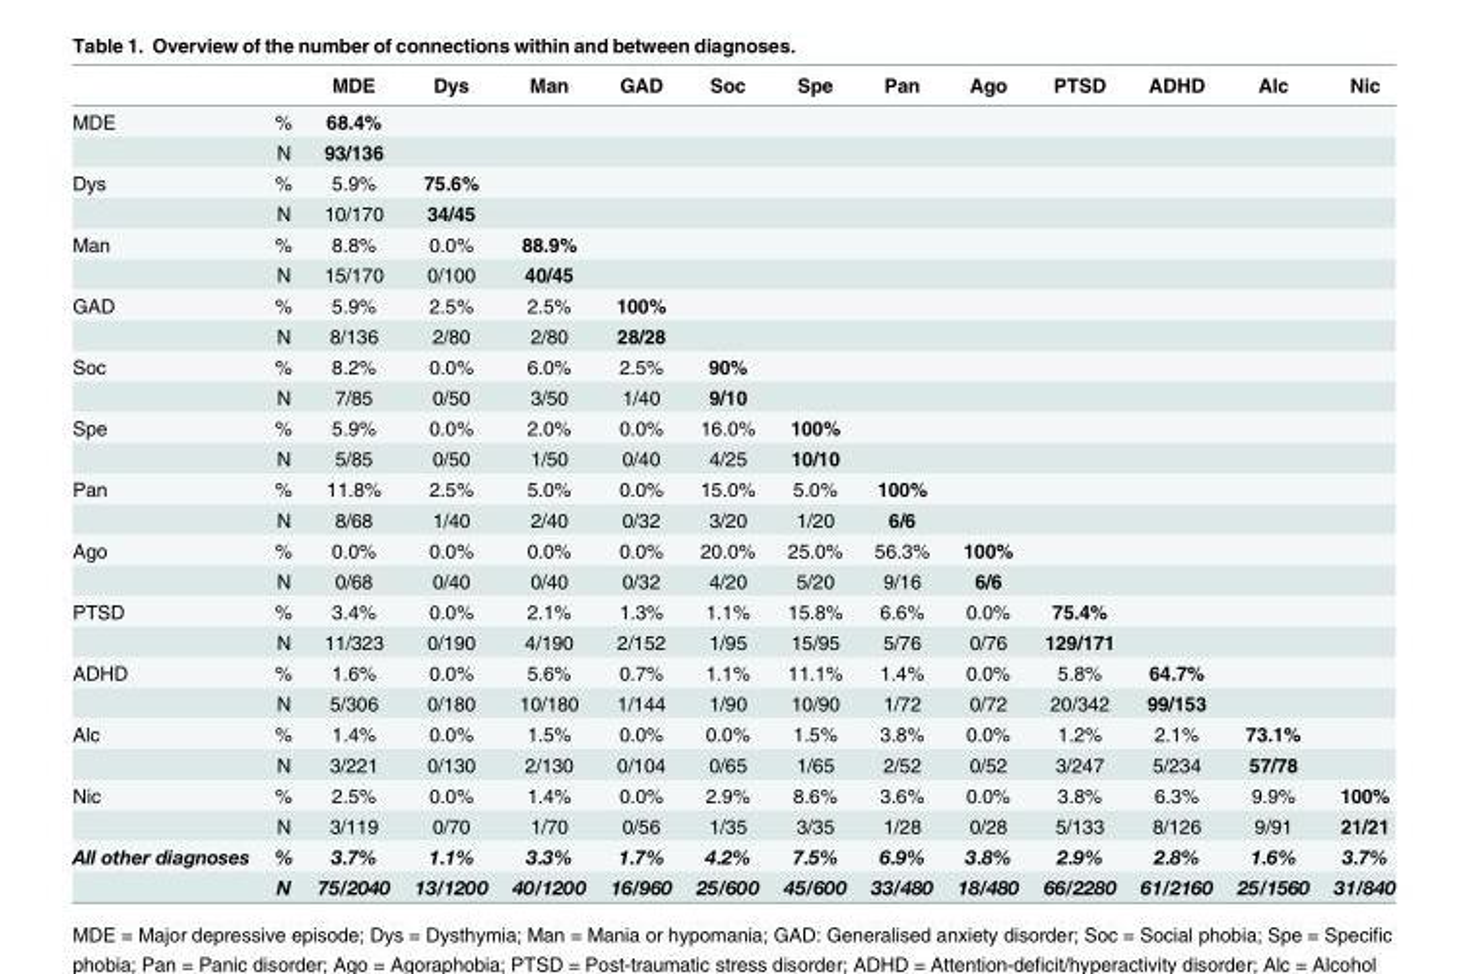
<table><thead><tr><td></td><td></td><td>MDE</td><td>Dys</td><td>Man</td><td>GAD</td><td>Soc</td><td>Spe</td><td>Pan</td><td>Ago</td><td>PTSD</td><td>ADHD</td><td>Alc</td><td>Nic</td></tr></thead><tbody><tr><td rowspan="2">MDE</td><td>%</td><td>68.4%</td><td></td><td></td><td></td><td></td><td></td><td></td><td></td><td></td><td></td><td></td><td></td></tr><tr><td>N</td><td>93/136</td><td></td><td></td><td></td><td></td><td></td><td></td><td></td><td></td><td></td><td></td><td></td></tr><tr><td rowspan="2">Dys</td><td>%</td><td>5.9%</td><td>75.6%</td><td></td><td></td><td></td><td></td><td></td><td></td><td></td><td></td><td></td><td></td></tr><tr><td>N</td><td>10/170</td><td>34/45</td><td></td><td></td><td></td><td></td><td></td><td></td><td></td><td></td><td></td><td></td></tr><tr><td rowspan="2">Man</td><td>%</td><td>8.8%</td><td>0.0%</td><td>88.9%</td><td></td><td></td><td></td><td></td><td></td><td></td><td></td><td></td><td></td></tr><tr><td>N</td><td>15/170</td><td>0/100</td><td>40/45</td><td></td><td></td><td></td><td></td><td></td><td></td><td></td><td></td><td></td></tr><tr><td rowspan="2">GAD</td><td>%</td><td>5.9%</td><td>2.5%</td><td>2.5%</td><td>100%</td><td></td><td></td><td></td><td></td><td></td><td></td><td></td><td></td></tr><tr><td>N</td><td>8/136</td><td>2/80</td><td>2/80</td><td>28/28</td><td></td><td></td><td></td><td></td><td></td><td></td><td></td><td></td></tr><tr><td rowspan="2">Soc</td><td>%</td><td>8.2%</td><td>0.0%</td><td>6.0%</td><td>2.5%</td><td>90%</td><td></td><td></td><td></td><td></td><td></td><td></td><td></td></tr><tr><td>N</td><td>7/85</td><td>0/50</td><td>3/50</td><td>1/40</td><td>9/10</td><td></td><td></td><td></td><td></td><td></td><td></td><td></td></tr><tr><td rowspan="2">Spe</td><td>%</td><td>5.9%</td><td>0.0%</td><td>2.0%</td><td>0.0%</td><td>16.0%</td><td>100%</td><td></td><td></td><td></td><td></td><td></td><td></td></tr><tr><td>N</td><td>5/85</td><td>0/50</td><td>1/50</td><td>0/40</td><td>4/25</td><td>10/10</td><td></td><td></td><td></td><td></td><td></td><td></td></tr><tr><td rowspan="2">Pan</td><td>%</td><td>11.8%</td><td>2.5%</td><td>5.0%</td><td>0.0%</td><td>15.0%</td><td>5.0%</td><td>100%</td><td></td><td></td><td></td><td></td><td></td></tr><tr><td>N</td><td>8/68</td><td>1/40</td><td>2/40</td><td>0/32</td><td>3/20</td><td>1/20</td><td>6/6</td><td></td><td></td><td></td><td></td><td></td></tr><tr><td rowspan="2">Ago</td><td>%</td><td>0.0%</td><td>0.0%</td><td>0.0%</td><td>0.0%</td><td>20.0%</td><td>25.0%</td><td>56.3%</td><td>100%</td><td></td><td></td><td></td><td></td></tr><tr><td>N</td><td>0/68</td><td>0/40</td><td>0/40</td><td>0/32</td><td>4/20</td><td>5/20</td><td>9/16</td><td>6/6</td><td></td><td></td><td></td><td></td></tr><tr><td rowspan="2">PTSD</td><td>%</td><td>3.4%</td><td>0.0%</td><td>2.1%</td><td>1.3%</td><td>1.1%</td><td>15.8%</td><td>6.6%</td><td>0.0%</td><td>75.4%</td><td></td><td></td><td></td></tr><tr><td>N</td><td>11/323</td><td>0/190</td><td>4/190</td><td>2/152</td><td>1/95</td><td>15/95</td><td>5/76</td><td>0/76</td><td>129/171</td><td></td><td></td><td></td></tr><tr><td rowspan="2">ADHD</td><td>%</td><td>1.6%</td><td>0.0%</td><td>5.6%</td><td>0.7%</td><td>1.1%</td><td>11.1%</td><td>1.4%</td><td>0.0%</td><td>5.8%</td><td>64.7%</td><td></td><td></td></tr><tr><td>N</td><td>5/306</td><td>0/180</td><td>10/180</td><td>1/144</td><td>1/90</td><td>10/90</td><td>1/72</td><td>0/72</td><td>20/342</td><td>99/153</td><td></td><td></td></tr><tr><td rowspan="2">Alc</td><td>%</td><td>1.4%</td><td>0.0%</td><td>1.5%</td><td>0.0%</td><td>0.0%</td><td>1.5%</td><td>3.8%</td><td>0.0%</td><td>1.2%</td><td>2.1%</td><td>73.1%</td><td></td></tr><tr><td>N</td><td>3/221</td><td>0/130</td><td>2/130</td><td>0/104</td><td>0/65</td><td>1/65</td><td>2/52</td><td>0/52</td><td>3/247</td><td>5/234</td><td>57/78</td><td></td></tr><tr><td rowspan="2">Nic</td><td>%</td><td>2.5%</td><td>0.0%</td><td>1.4%</td><td>0.0%</td><td>2.9%</td><td>8.6%</td><td>3.6%</td><td>0.0%</td><td>3.8%</td><td>6.3%</td><td>9.9%</td><td>100%</td></tr><tr><td>N</td><td>3/119</td><td>0/70</td><td>1/70</td><td>0/56</td><td>1/35</td><td>3/35</td><td>1/28</td><td>0/28</td><td>5/133</td><td>8/126</td><td>9/91</td><td>21/21</td></tr><tr><td rowspan="2">All other diagnoses</td><td>%</td><td>3.7%</td><td>1.1%</td><td>3.3%</td><td>1.7%</td><td>4.2%</td><td>7.5%</td><td>6.9%</td><td>3.8%</td><td>2.9%</td><td>2.8%</td><td>1.6%</td><td>3.7%</td></tr><tr><td>N</td><td>75/2040</td><td>13/1200</td><td>40/1200</td><td>16/960</td><td>25/600</td><td>45/600</td><td>33/480</td><td>18/480</td><td>66/2280</td><td>61/2160</td><td>25/1560</td><td>31/840</td></tr></tbody></table>